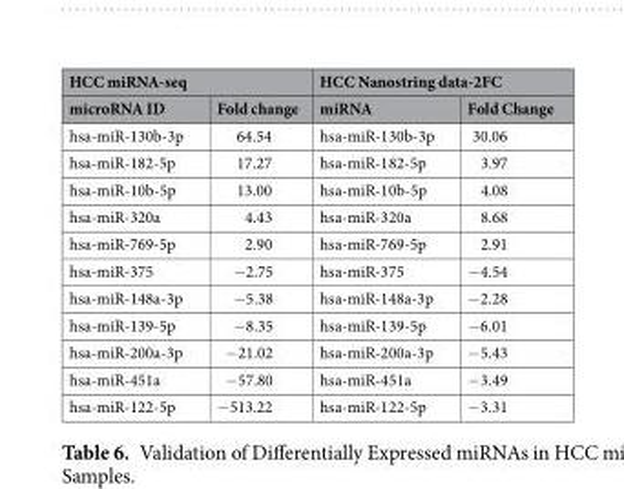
<table><thead><tr><td colspan="2">HCC miRNA-seq</td><td colspan="2">HCC Nanostring data-2FC</td></tr><tr><td>microRNA ID</td><td>Fold change</td><td>miRNA</td><td>Fold Change</td></tr></thead><tbody><tr><td>hsa-miR-130b-3p</td><td>64.54</td><td>hsa-miR-130b-3p</td><td>30.06</td></tr><tr><td>hsa-miR-182-5p</td><td>17.27</td><td>hsa-miR-182-5p</td><td>3.97</td></tr><tr><td>hsa-miR-10b-5p</td><td>13.00</td><td>hsa-miR-10b-5p</td><td>4.08</td></tr><tr><td>hsa-miR-320a</td><td>4.43</td><td>hsa-miR-320a</td><td>8.68</td></tr><tr><td>hsa-miR-769-5p</td><td>2.90</td><td>hsa-miR-769-5p</td><td>2.91</td></tr><tr><td>hsa-miR-375</td><td>−2.75</td><td>hsa-miR-375</td><td>−4.54</td></tr><tr><td>hsa-miR-148a-3p</td><td>−5.38</td><td>hsa-miR-148a-3p</td><td>−2.28</td></tr><tr><td>hsa-miR-139-5p</td><td>−8.35</td><td>hsa-miR-139-5p</td><td>−6.01</td></tr><tr><td>hsa-miR-200a-3p</td><td>−21.02</td><td>hsa-miR-200a-3p</td><td>−5.43</td></tr><tr><td>hsa-miR-451a</td><td>−57.80</td><td>hsa-miR-451a</td><td>−3.49</td></tr><tr><td>hsa-miR-122-5p</td><td>−513.22</td><td>hsa-miR-122-5p</td><td>−3.31</td></tr></tbody></table>